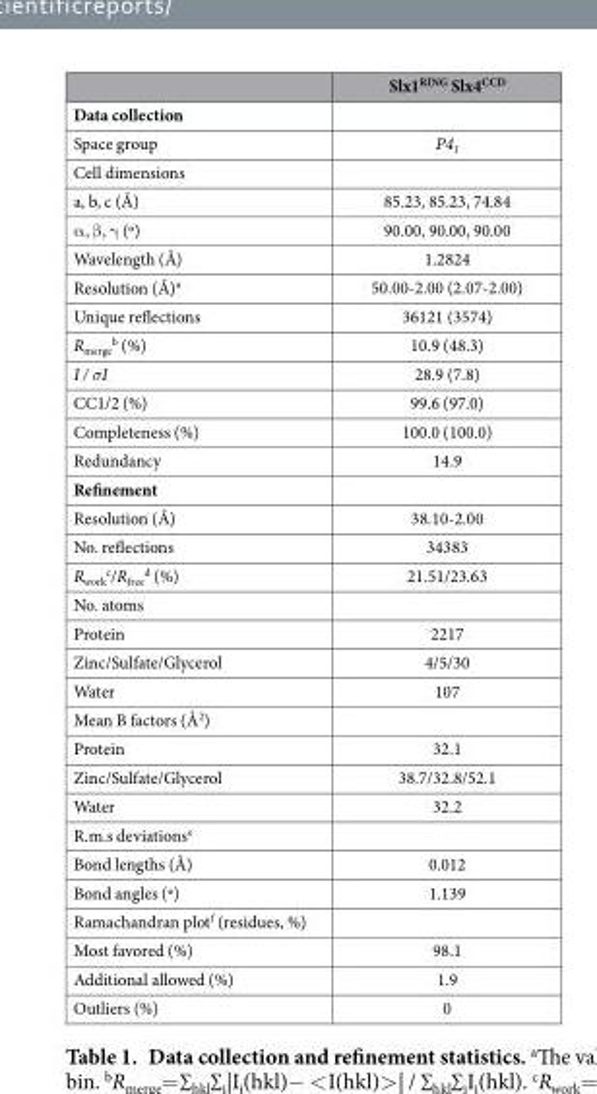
<table><thead><tr><td></td><td>Slx1<sup>RING</sup> Slx4<sup>CCD</sup></td></tr></thead><tbody><tr><td colspan="2">Data collection</td></tr><tr><td>Space group</td><td>P4<sub>1</sub></td></tr><tr><td colspan="2">Cell dimensions</td></tr><tr><td>a, b, c (Å)</td><td>85.23, 85.23, 74.84</td></tr><tr><td>α , β , γ (º)</td><td>90.00, 90.00, 90.00</td></tr><tr><td>Wavelength (Å)</td><td>1.2824</td></tr><tr><td>Resolution (Å)<sup>a</sup></td><td>50.00-2.00 (2.07-2.00)</td></tr><tr><td>Unique reflections</td><td>36121 (3574)</td></tr><tr><td>R<sub>merge</sub> <sup>b</sup> (%)</td><td>10.9 (48.3)</td></tr><tr><td>I / σI</td><td>28.9 (7.8)</td></tr><tr><td>CC1/2 (%)</td><td>99.6 (97.0)</td></tr><tr><td>Completeness (%)</td><td>100.0 (100.0)</td></tr><tr><td>Redundancy</td><td>14.9</td></tr><tr><td colspan="2">Refinement</td></tr><tr><td>Resolution (Å)</td><td>38.10-2.00</td></tr><tr><td>No. reflections</td><td>34383</td></tr><tr><td>R<sub>work</sub> <sup>c</sup>/R<sub>free</sub> <sup>d</sup> (%)</td><td>21.51/23.63</td></tr><tr><td colspan="2">No. atoms</td></tr><tr><td>Protein</td><td>2217</td></tr><tr><td>Zinc/Sulfate/Glycerol</td><td>4/5/30</td></tr><tr><td>Water</td><td>107</td></tr><tr><td colspan="2">Mean B factors (Å<sup>2</sup>)</td></tr><tr><td>Protein</td><td>32.1</td></tr><tr><td>Zinc/Sulfate/Glycerol</td><td>38.7/32.8/52.1</td></tr><tr><td>Water</td><td>32.2</td></tr><tr><td colspan="2">R.m.s deviations<sup>e</sup></td></tr><tr><td>Bond lengths (Å)</td><td>0.012</td></tr><tr><td>Bond angles (º)</td><td>1.139</td></tr><tr><td colspan="2">Ramachandran plot<sup>f</sup> (residues, %)</td></tr><tr><td>Most favored (%)</td><td>98.1</td></tr><tr><td>Additional allowed (%)</td><td>1.9</td></tr><tr><td>Outliers (%)</td><td>0</td></tr></tbody></table>